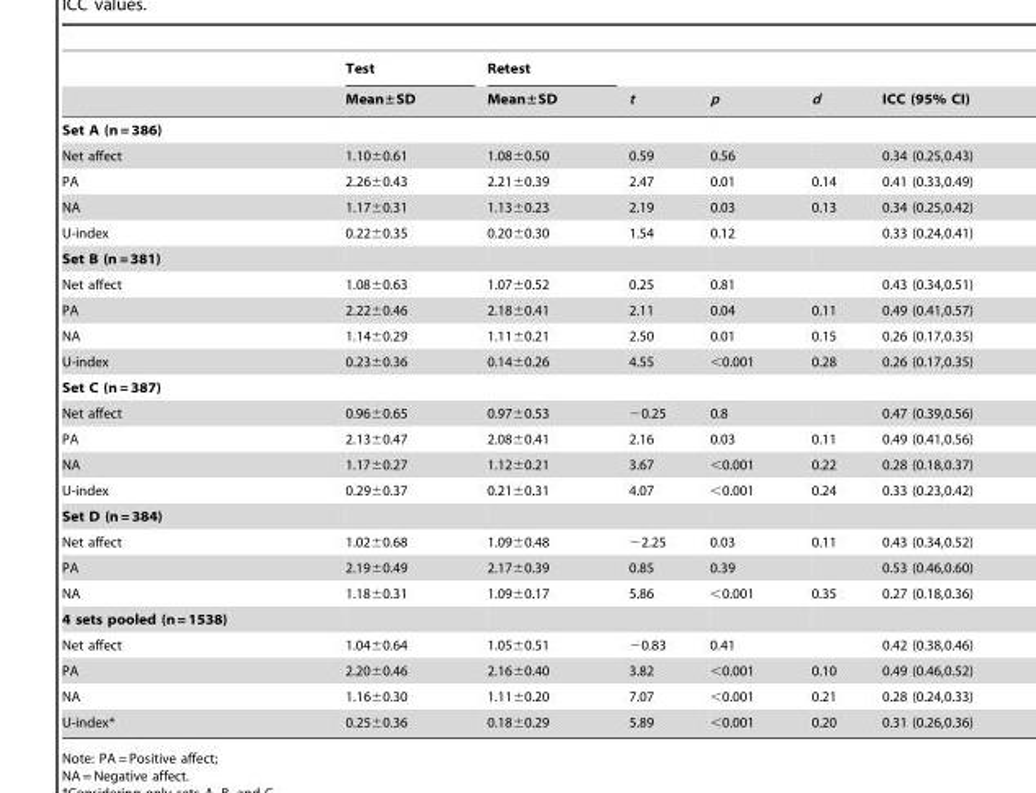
<table><thead><tr><td rowspan="2"></td><td rowspan="2">Test Mean±SD</td><td rowspan="2">Retest Mean±SD</td><td rowspan="2">t</td><td rowspan="2">p</td><td rowspan="2">d</td><td rowspan="2">ICC (95% CI)</td></tr><tr></tr></thead><tbody><tr><td colspan="7">Set A (n = 386)</td></tr><tr><td>Net affect</td><td>1.10±0.61</td><td>1.08±0.50</td><td>0.59</td><td>0.56</td><td></td><td>0.34 (0.25,0.43)</td></tr><tr><td>PA</td><td>2.26±0.43</td><td>2.21±0.39</td><td>2.47</td><td>0.01</td><td>0.14</td><td>0.41 (0.33,0.49)</td></tr><tr><td>NA</td><td>1.17±0.31</td><td>1.13±0.23</td><td>2.19</td><td>0.03</td><td>0.13</td><td>0.34 (0.25,0.42)</td></tr><tr><td>U-index</td><td>0.22±0.35</td><td>0.20±0.30</td><td>1.54</td><td>0.12</td><td></td><td>0.33 (0.24,0.41)</td></tr><tr><td colspan="7">Set B (n = 381)</td></tr><tr><td>Net affect</td><td>1.08±0.63</td><td>1.07±0.52</td><td>0.25</td><td>0.81</td><td></td><td>0.43 (0.34,0.51)</td></tr><tr><td>PA</td><td>2.22±0.46</td><td>2.18±0.41</td><td>2.11</td><td>0.04</td><td>0.11</td><td>0.49 (0.41,0.57)</td></tr><tr><td>NA</td><td>1.14±0.29</td><td>1.11±0.21</td><td>2.50</td><td>0.01</td><td>0.15</td><td>0.26 (0.17,0.35)</td></tr><tr><td>U-index</td><td>0.23±0.36</td><td>0.14±0.26</td><td>4.55</td><td>&lt;0.001</td><td>0.28</td><td>0.26 (0.17,0.35)</td></tr><tr><td colspan="7">Set C (n = 387)</td></tr><tr><td>Net affect</td><td>0.96±0.65</td><td>0.97±0.53</td><td>−0.25</td><td>0.8</td><td></td><td>0.47 (0.39,0.56)</td></tr><tr><td>PA</td><td>2.13±0.47</td><td>2.08±0.41</td><td>2.16</td><td>0.03</td><td>0.11</td><td>0.49 (0.41,0.56)</td></tr><tr><td>NA</td><td>1.17±0.27</td><td>1.12±0.21</td><td>3.67</td><td>&lt;0.001</td><td>0.22</td><td>0.28 (0.18,0.37)</td></tr><tr><td>U-index</td><td>0.29±0.37</td><td>0.21±0.31</td><td>4.07</td><td>&lt;0.001</td><td>0.24</td><td>0.33 (0.23,0.42)</td></tr><tr><td colspan="7">Set D (n = 384)</td></tr><tr><td>Net affect</td><td>1.02±0.68</td><td>1.09±0.48</td><td>−2.25</td><td>0.03</td><td>0.11</td><td>0.43 (0.34,0.52)</td></tr><tr><td>PA</td><td>2.19±0.49</td><td>2.17±0.39</td><td>0.85</td><td>0.39</td><td></td><td>0.53 (0.46,0.60)</td></tr><tr><td>NA</td><td>1.18±0.31</td><td>1.09±0.17</td><td>5.86</td><td>&lt;0.001</td><td>0.35</td><td>0.27 (0.18,0.36)</td></tr><tr><td colspan="7">4 sets pooled (n = 1538)</td></tr><tr><td>Net affect</td><td>1.04±0.64</td><td>1.05±0.51</td><td>−0.83</td><td>0.41</td><td></td><td>0.42 (0.38,0.46)</td></tr><tr><td>PA</td><td>2.20±0.46</td><td>2.16±0.40</td><td>3.82</td><td>&lt;0.001</td><td>0.10</td><td>0.49 (0.46,0.52)</td></tr><tr><td>NA</td><td>1.16±0.30</td><td>1.11±0.20</td><td>7.07</td><td>&lt;0.001</td><td>0.21</td><td>0.28 (0.24,0.33)</td></tr><tr><td>U-index*</td><td>0.25±0.36</td><td>0.18±0.29</td><td>5.89</td><td>&lt;0.001</td><td>0.20</td><td>0.31 (0.26,0.36)</td></tr></tbody></table>